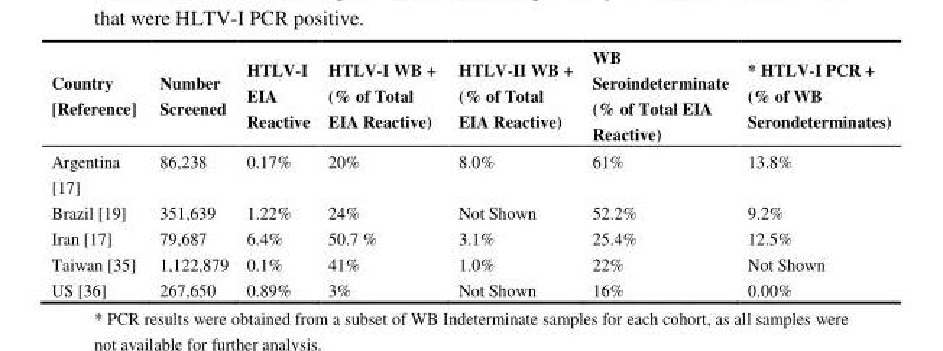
<table><thead><tr><td>Country [Reference]</td><td>Number Screened</td><td>HTLV-I EIA Reactive</td><td>HTLV-I WB + (% of Total EIA Reactive)</td><td>HTLV-II WB + (% of Total EIA Reactive)</td><td>WB Seroindeterminate (% of Total EIA Reactive)</td><td>* HTLV-I PCR + (% of WB Serondeterminates)</td></tr></thead><tbody><tr><td>Argentina [17]</td><td>86,238</td><td>0.17%</td><td>20%</td><td>8.0%</td><td>61%</td><td>13.8%</td></tr><tr><td>Brazil [19]</td><td>351,639</td><td>1.22%</td><td>24%</td><td>Not Shown</td><td>52.2%</td><td>9.2%</td></tr><tr><td>Iran [17]</td><td>79,687</td><td>6.4%</td><td>50.7 %</td><td>3.1%</td><td>25.4%</td><td>12.5%</td></tr><tr><td>Taiwan [35]</td><td>1,122,879</td><td>0.1%</td><td>41%</td><td>1.0%</td><td>22%</td><td>Not Shown</td></tr><tr><td>US [36]</td><td>267,650</td><td>0.89%</td><td>3%</td><td>Not Shown</td><td>16%</td><td>0.00%</td></tr></tbody></table>